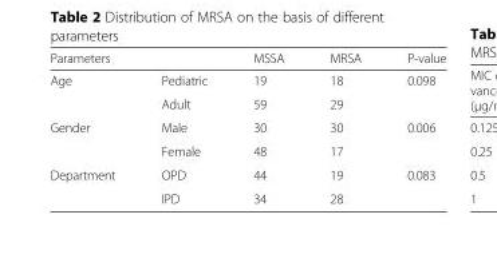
<table><thead><tr><td>Parameters</td><td></td><td>MSSA</td><td>MRSA</td><td>P-value</td></tr></thead><tbody><tr><td rowspan="2">Age</td><td>Pediatric</td><td>19</td><td>18</td><td rowspan="2">0.098</td></tr><tr><td>Adult</td><td>59</td><td>29</td></tr><tr><td rowspan="2">Gender</td><td>Male</td><td>30</td><td>30</td><td rowspan="2">0.006</td></tr><tr><td>Female</td><td>48</td><td>17</td></tr><tr><td rowspan="2">Department</td><td>OPD</td><td>44</td><td>19</td><td rowspan="2">0.083</td></tr><tr><td>IPD</td><td>34</td><td>28</td></tr></tbody></table>